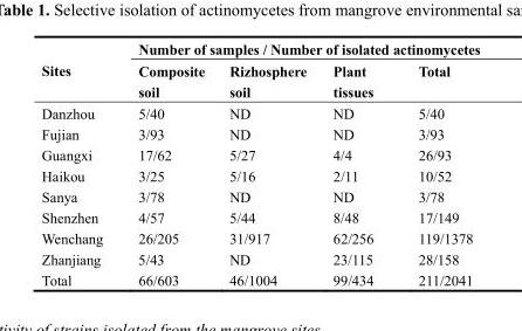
<table><thead><tr><td rowspan="2">Sites</td><td colspan="4">Number of samples / Number of isolated actinomycetes</td></tr><tr><td>Composite soil</td><td>Rizhosphere soil</td><td>Plant tissues</td><td>Total</td></tr></thead><tbody><tr><td>Danzhou</td><td>5/40</td><td>ND</td><td>ND</td><td>5/40</td></tr><tr><td>Fujian</td><td>3/93</td><td>ND</td><td>ND</td><td>3/93</td></tr><tr><td>Guangxi</td><td>17/62</td><td>5/27</td><td>4/4</td><td>26/93</td></tr><tr><td>Haikou</td><td>3/25</td><td>5/16</td><td>2/11</td><td>10/52</td></tr><tr><td>Sanya</td><td>3/78</td><td>ND</td><td>ND</td><td>3/78</td></tr><tr><td>Shenzhen</td><td>4/57</td><td>5/44</td><td>8/48</td><td>17/149</td></tr><tr><td>Wenchang</td><td>26/205</td><td>31/917</td><td>62/256</td><td>119/1378</td></tr><tr><td>Zhanjiang</td><td>5/43</td><td>ND</td><td>23/115</td><td>28/158</td></tr><tr><td>Total</td><td>66/603</td><td>46/1004</td><td>99/434</td><td>211/2041</td></tr></tbody></table>